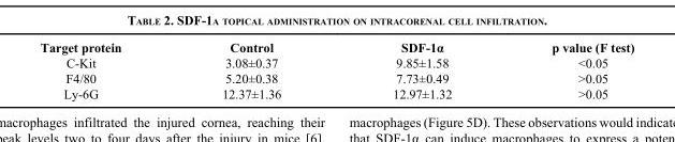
<table><thead><tr><td>Target protein</td><td>Control</td><td>SDF-1α</td><td>p value (F test)</td></tr></thead><tbody><tr><td>C-Kit</td><td>3.08±0.37</td><td>9.85±1.58</td><td>&lt;0.05</td></tr><tr><td>F4/80</td><td>5.20±0.38</td><td>7.73±0.49</td><td>&gt;0.05</td></tr><tr><td>Ly-6G</td><td>12.37±1.36</td><td>12.97±1.32</td><td>&gt;0.05</td></tr></tbody></table>